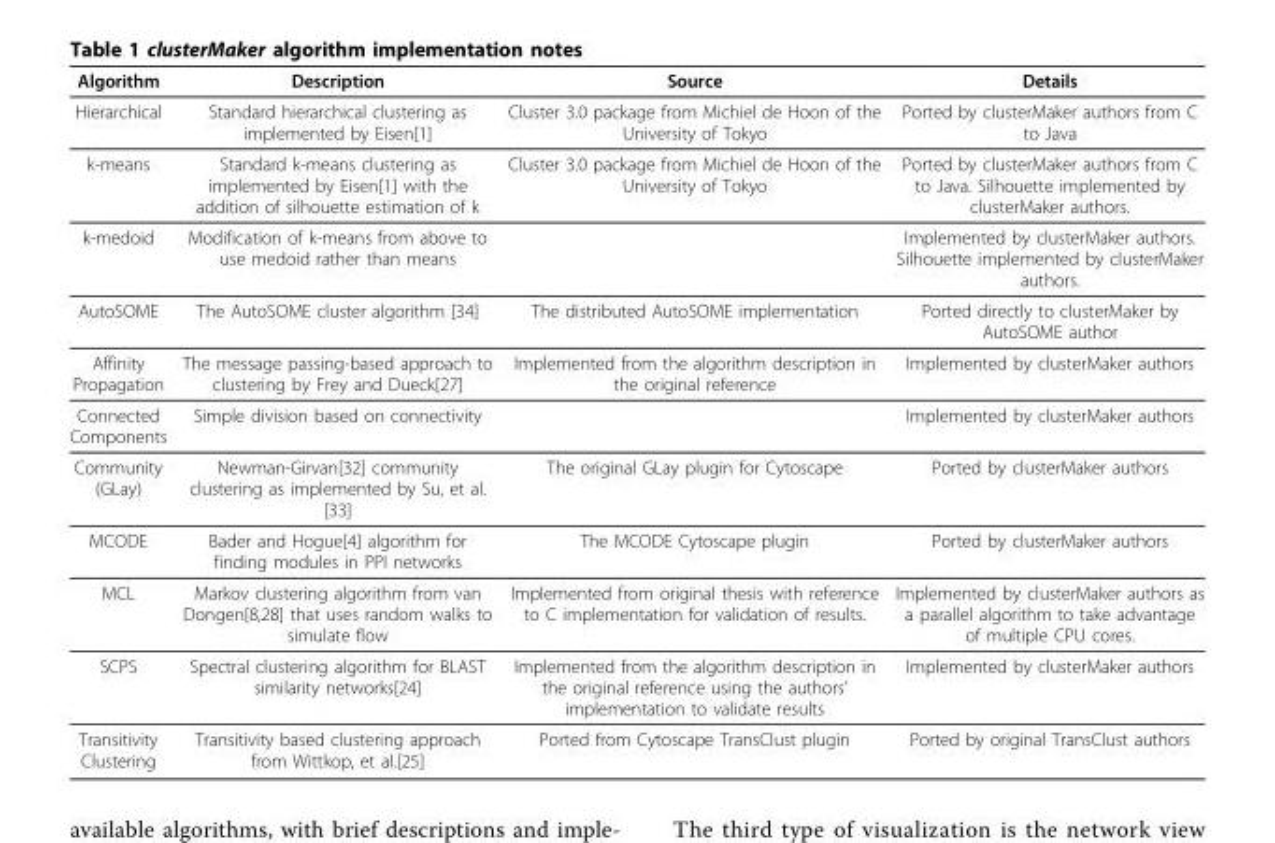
<table><thead><tr><td>Algorithm</td><td>Description</td><td>Source</td><td>Details</td></tr></thead><tbody><tr><td>Hierarchical</td><td>Standard hierarchical clustering as implemented by Eisen[1]</td><td>Cluster 3.0 package from Michiel de Hoon of the University of Tokyo</td><td>Ported by clusterMaker authors from C to Java</td></tr><tr><td>k-means</td><td>Standard k-means clustering as implemented by Eisen[1] with the addition of silhouette estimation of k</td><td>Cluster 3.0 package from Michiel de Hoon of the University of Tokyo</td><td>Ported by clusterMaker authors from C to Java. Silhouette implemented by clusterMaker authors.</td></tr><tr><td>k-medoid</td><td>Modification of k-means from above to use medoid rather than means</td><td></td><td>Implemented by clusterMaker authors. Silhouette implemented by clusterMaker authors.</td></tr><tr><td>AutoSOME</td><td>The AutoSOME cluster algorithm [34]</td><td>The distributed AutoSOME implementation</td><td>Ported directly to clusterMaker by AutoSOME author</td></tr><tr><td>Affinity Propagation</td><td>The message passing-based approach to clustering by Frey and Dueck[27]</td><td>Implemented from the algorithm description in the original reference</td><td>Implemented by clusterMaker authors</td></tr><tr><td>Connected Components</td><td>Simple division based on connectivity</td><td></td><td>Implemented by clusterMaker authors</td></tr><tr><td>Community (GLay)</td><td>Newman-Girvan[32] community clustering as implemented by Su, et al. [33]</td><td>The original GLay plugin for Cytoscape</td><td>Ported by clusterMaker authors</td></tr><tr><td>MCODE</td><td>Bader and Hogue[4] algorithm for finding modules in PPI networks</td><td>The MCODE Cytoscape plugin</td><td>Ported by clusterMaker authors</td></tr><tr><td>MCL</td><td>Markov clustering algorithm from van Dongen[8,28] that uses random walks to simulate flow</td><td>Implemented from original thesis with reference to C implementation for validation of results.</td><td>Implemented by clusterMaker authors as a parallel algorithm to take advantage of multiple CPU cores.</td></tr><tr><td>SCPS</td><td>Spectral clustering algorithm for BLAST similarity networks[24]</td><td>Implemented from the algorithm description in the original reference using the authors’ implementation to validate results</td><td>Implemented by clusterMaker authors</td></tr><tr><td>Transitivity Clustering</td><td>Transitivity based clustering approach from Wittkop, et al.[25]</td><td>Ported from Cytoscape TransClust plugin</td><td>Ported by original TransClust authors</td></tr></tbody></table>